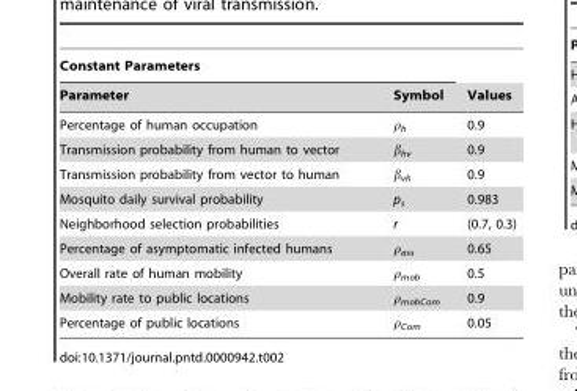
<table><thead><tr><td colspan="2">Constant Parameters</td><td rowspan="2">Values</td></tr><tr><td>Parameter</td><td>Symbol</td></tr></thead><tbody><tr><td>Percentage of human occupation</td><td>ρ<sub>h</sub></td><td>0.9</td></tr><tr><td>Transmission probability from human to vector</td><td>β<sub>hv</sub></td><td>0.9</td></tr><tr><td>Transmission probability from vector to human</td><td>β<sub>vh</sub></td><td>0.9</td></tr><tr><td>Mosquito daily survival probability</td><td>p<sub>s</sub></td><td>0.983</td></tr><tr><td>Neighborhood selection probabilities</td><td>r</td><td>(0.7, 0.3)</td></tr><tr><td>Percentage of asymptomatic infected humans</td><td>ρ<sub>ass</sub></td><td>0.65</td></tr><tr><td>Overall rate of human mobility</td><td>ρ<sub>mob</sub></td><td>0.5</td></tr><tr><td>Mobility rate to public locations</td><td>ρ<sub>mobCom</sub></td><td>0.9</td></tr><tr><td>Percentage of public locations</td><td>ρ<sub>Com</sub></td><td>0.05</td></tr></tbody></table>